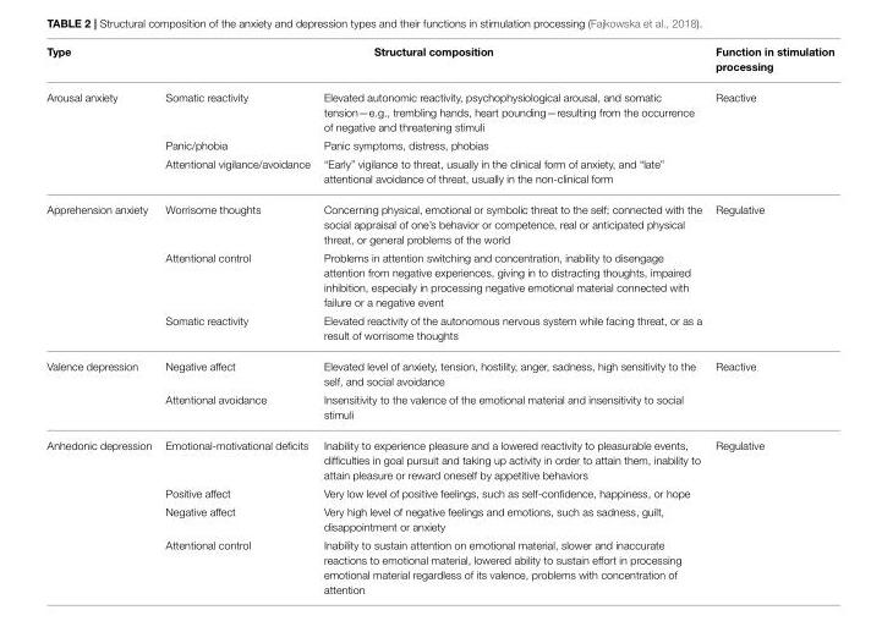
<table><thead><tr><td rowspan="2">Type Arousal anxiety</td><td colspan="2">Structural composition</td><td rowspan="2">Function in stimulation processing Reactive</td></tr><tr><td>Somatic reactivity</td><td>Elevated autonomic reactivity, psychophysiological arousal, and somatic tension—e.g., trembling hands, heart pounding—resulting from the occurrence of negative and threatening stimuli</td></tr></thead><tbody><tr><td></td><td>Panic/phobia</td><td>Panic symptoms, distress, phobias</td><td></td></tr><tr><td></td><td>Attentional vigilance/avoidance</td><td>“Early” vigilance to threat, usually in the clinical form of anxiety, and “late” attentional avoidance of threat, usually in the non-clinical form</td><td></td></tr><tr><td rowspan="3">Apprehension anxiety</td><td>Worrisome thoughts</td><td>Concerning physical, emotional or symbolic threat to the self; connected with the social appraisal of one’s behavior or competence, real or anticipated physical threat, or general problems of the world</td><td>Regulative</td></tr><tr><td>Attentional control</td><td>Problems in attention switching and concentration, inability to disengage attention from negative experiences, giving in to distracting thoughts, impaired inhibition, especially in processing negative emotional material connected with failure or a negative event</td><td></td></tr><tr><td>Somatic reactivity</td><td>Elevated reactivity of the autonomous nervous system while facing threat, or as a result of worrisome thoughts</td><td></td></tr><tr><td rowspan="2">Valence depression</td><td>Negative affect</td><td>Elevated level of anxiety, tension, hostility, anger, sadness, high sensitivity to the self, and social avoidance</td><td>Reactive</td></tr><tr><td>Attentional avoidance</td><td>Insensitivity to the valence of the emotional material and insensitivity to social stimuli</td><td></td></tr><tr><td rowspan="4">Anhedonic depression</td><td>Emotional-motivational deficits</td><td>Inability to experience pleasure and a lowered reactivity to pleasurable events, difficulties in goal pursuit and taking up activity in order to attain them, inability to attain pleasure or reward oneself by appetitive behaviors</td><td>Regulative</td></tr><tr><td>Positive affect</td><td>Very low level of positive feelings, such as self-confidence, happiness, or hope</td><td></td></tr><tr><td>Negative affect</td><td>Very high level of negative feelings and emotions, such as sadness, guilt, disappointment or anxiety</td><td></td></tr><tr><td>Attentional control</td><td>Inability to sustain attention on emotional material, slower and inaccurate reactions to emotional material, lowered ability to sustain effort in processing emotional material regardless of its valence, problems with concentration of attention</td><td></td></tr></tbody></table>